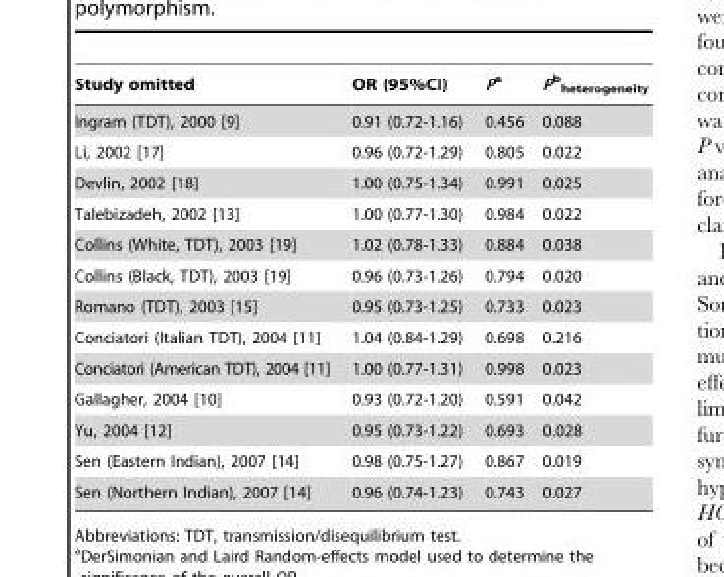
<table><thead><tr><td>Study omitted</td><td>OR (95%CI)</td><td>Pa</td><td>Pb <sub>heterogeneity</sub></td></tr></thead><tbody><tr><td>Ingram (TDT), 2000 [9]</td><td>0.91 (0.72-1.16)</td><td>0.456</td><td>0.088</td></tr><tr><td>Li, 2002 [17]</td><td>0.96 (0.72-1.29)</td><td>0.805</td><td>0.022</td></tr><tr><td>Devlin, 2002 [18]</td><td>1.00 (0.75-1.34)</td><td>0.991</td><td>0.025</td></tr><tr><td>Talebizadeh, 2002 [13]</td><td>1.00 (0.77-1.30)</td><td>0.984</td><td>0.022</td></tr><tr><td>Collins (White, TDT), 2003 [19]</td><td>1.02 (0.78-1.33)</td><td>0.884</td><td>0.038</td></tr><tr><td>Collins (Black, TDT), 2003 [19]</td><td>0.96 (0.73-1.26)</td><td>0.794</td><td>0.020</td></tr><tr><td>Romano (TDT), 2003 [15]</td><td>0.95 (0.73-1.25)</td><td>0.733</td><td>0.023</td></tr><tr><td>Conciatori (Italian TDT), 2004 [11]</td><td>1.04 (0.84-1.29)</td><td>0.698</td><td>0.216</td></tr><tr><td>Conciatori (American TDT), 2004 [11]</td><td>1.00 (0.77-1.31)</td><td>0.998</td><td>0.023</td></tr><tr><td>Gallagher, 2004 [10]</td><td>0.93 (0.72-1.20)</td><td>0.591</td><td>0.042</td></tr><tr><td>Yu, 2004 [12]</td><td>0.95 (0.73-1.22)</td><td>0.693</td><td>0.028</td></tr><tr><td>Sen (Eastern Indian), 2007 [14]</td><td>0.98 (0.75-1.27)</td><td>0.867</td><td>0.019</td></tr><tr><td>Sen (Northern Indian), 2007 [14]</td><td>0.96 (0.74-1.23)</td><td>0.743</td><td>0.027</td></tr></tbody></table>